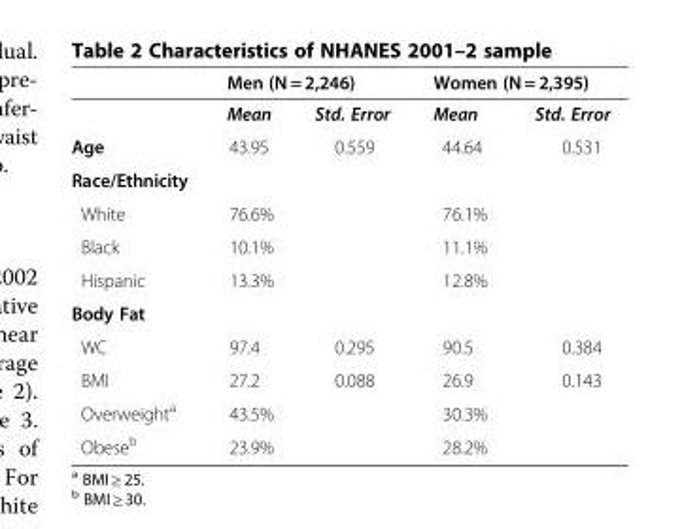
<table><thead><tr><td rowspan="2"></td><td colspan="2">Men (N = 2,246)</td><td colspan="2">Women (N = 2,395)</td></tr><tr><td>Mean</td><td>Std. Error</td><td>Mean</td><td>Std. Error</td></tr></thead><tbody><tr><td>Age</td><td>43.95</td><td>0.559</td><td>44.64</td><td>0.531</td></tr><tr><td colspan="5">Race/Ethnicity</td></tr><tr><td>White</td><td>76.6%</td><td></td><td>76.1%</td><td></td></tr><tr><td>Black</td><td>10.1%</td><td></td><td>11.1%</td><td></td></tr><tr><td>Hispanic</td><td>13.3%</td><td></td><td>12.8%</td><td></td></tr><tr><td colspan="5">Body Fat</td></tr><tr><td>WC</td><td>97.4</td><td>0.295</td><td>90.5</td><td>0.384</td></tr><tr><td>BMI</td><td>27.2</td><td>0.088</td><td>26.9</td><td>0.143</td></tr><tr><td>Overweight<sup>a</sup></td><td>43.5%</td><td></td><td>30.3%</td><td></td></tr><tr><td>Obese<sup>b</sup></td><td>23.9%</td><td></td><td>28.2%</td><td></td></tr></tbody></table>